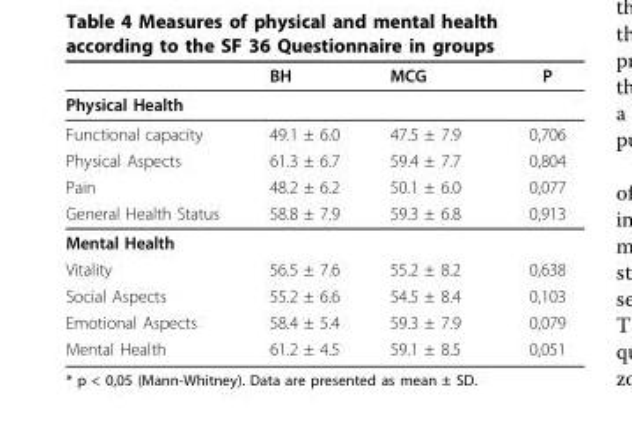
<table><thead><tr><td></td><td>BH</td><td>MCG</td><td>P</td></tr></thead><tbody><tr><td colspan="4">Physical Health</td></tr><tr><td>Functional capacity</td><td>49.1 ± 6.0</td><td>47.5 ± 7.9</td><td>0,706</td></tr><tr><td>Physical Aspects</td><td>61.3 ± 6.7</td><td>59.4 ± 7.7</td><td>0,804</td></tr><tr><td>Pain</td><td>48.2 ± 6.2</td><td>50.1 ± 6.0</td><td>0,077</td></tr><tr><td>General Health Status</td><td>58.8 ± 7.9</td><td>59.3 ± 6.8</td><td>0,913</td></tr><tr><td colspan="4">Mental Health</td></tr><tr><td>Vitality</td><td>56.5 ± 7.6</td><td>55.2 ± 8.2</td><td>0,638</td></tr><tr><td>Social Aspects</td><td>55.2 ± 6.6</td><td>54.5 ± 8.4</td><td>0,103</td></tr><tr><td>Emotional Aspects</td><td>58.4 ± 5.4</td><td>59.3 ± 7.9</td><td>0,079</td></tr><tr><td>Mental Health</td><td>61.2 ± 4.5</td><td>59.1 ± 8.5</td><td>0,051</td></tr></tbody></table>